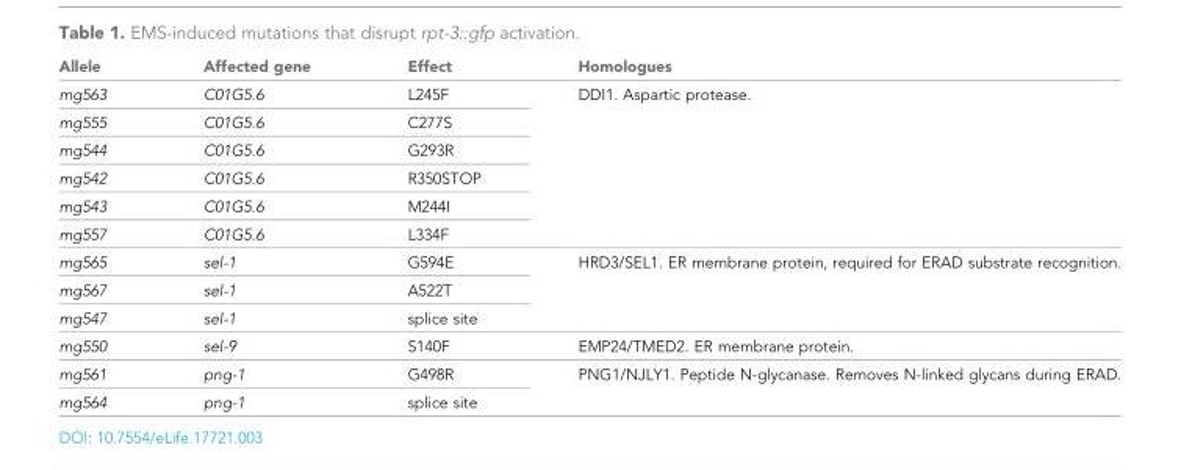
<table><thead><tr><td>Allele</td><td>Affected gene</td><td>Effect</td><td>Homologues</td></tr></thead><tbody><tr><td>mg563</td><td>C01G5.6</td><td>L245F</td><td rowspan="6">DDI1. Aspartic protease.</td></tr><tr><td>mg555</td><td>C01G5.6</td><td>C277S</td></tr><tr><td>mg544</td><td>C01G5.6</td><td>G293R</td></tr><tr><td>mg542</td><td>C01G5.6</td><td>R350STOP</td></tr><tr><td>mg543</td><td>C01G5.6</td><td>M244I</td></tr><tr><td>mg557</td><td>C01G5.6</td><td>L334F</td></tr><tr><td>mg565</td><td>sel-1</td><td>G594E</td><td rowspan="3">HRD3/SEL1. ER membrane protein, required for ERAD substrate recognition.</td></tr><tr><td>mg567</td><td>sel-1</td><td>A522T</td></tr><tr><td>mg547</td><td>sel-1</td><td>splice site</td></tr><tr><td>mg550</td><td>sel-9</td><td>S140F</td><td>EMP24/TMED2. ER membrane protein.</td></tr><tr><td>mg561</td><td>png-1</td><td>G498R</td><td rowspan="2">PNG1/NJLY1. Peptide N-glycanase. Removes N-linked glycans during ERAD.</td></tr><tr><td>mg564</td><td>png-1</td><td>splice site</td></tr></tbody></table>